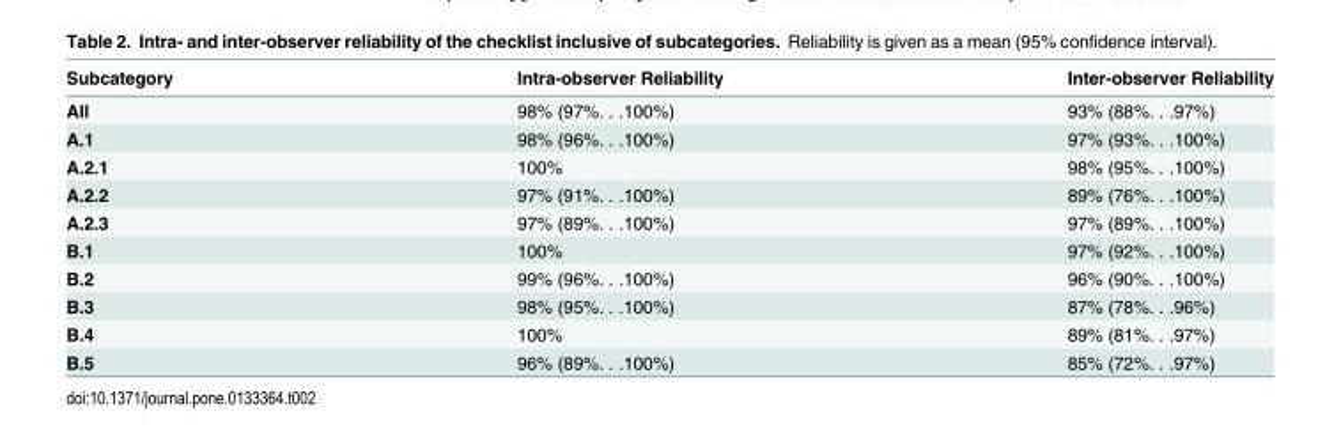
<table><thead><tr><td>Subcategory</td><td>Intra-observer Reliability</td><td>Inter-observer Reliability</td></tr></thead><tbody><tr><td>All</td><td>98% (97%. . .100%)</td><td>93% (88%. . .97%)</td></tr><tr><td>A.1</td><td>98% (96%. . .100%)</td><td>97% (93%. . .100%)</td></tr><tr><td>A.2.1</td><td>100%</td><td>98% (95%. . .100%)</td></tr><tr><td>A.2.2</td><td>97% (91%. . .100%)</td><td>89% (76%. . .100%)</td></tr><tr><td>A.2.3</td><td>97% (89%. . .100%)</td><td>97% (89%. . .100%)</td></tr><tr><td>B.1</td><td>100%</td><td>97% (92%. . .100%)</td></tr><tr><td>B.2</td><td>99% (96%. . .100%)</td><td>96% (90%. . .100%)</td></tr><tr><td>B.3</td><td>98% (95%. . .100%)</td><td>87% (78%. . .96%)</td></tr><tr><td>B.4</td><td>100%</td><td>89% (81%. . .97%)</td></tr><tr><td>B.5</td><td>96% (89%. . .100%)</td><td>85% (72%. . .97%)</td></tr></tbody></table>